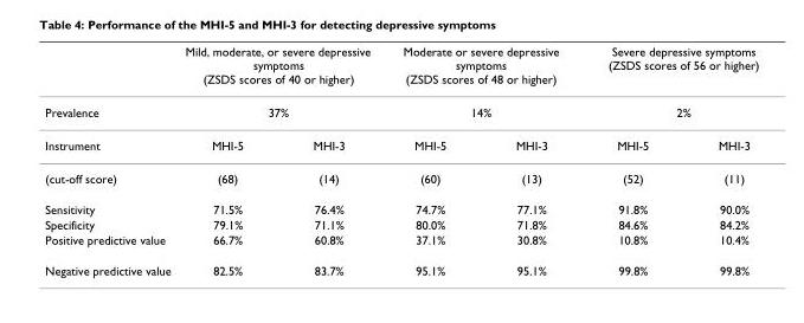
<table><thead><tr><td rowspan="3">Prevalence Instrument</td><td rowspan="2" colspan="2">Mild, moderate, or severe depressive symptoms (ZSDS scores of 40 or higher) 37%</td><td rowspan="2" colspan="2">Moderate or severe depressive symptoms (ZSDS scores of 48 or higher) 14%</td><td rowspan="2" colspan="2">Severe depressive symptoms (ZSDS scores of 56 or higher) 2%</td></tr><tr></tr><tr><td>MHI-5</td><td>MHI-3</td><td>MHI-5</td><td>MHI-3</td><td>MHI-5</td><td>MHI-3</td></tr></thead><tbody><tr><td>(cut-off score)</td><td>(68)</td><td>(14)</td><td>(60)</td><td>(13)</td><td>(52)</td><td>(11)</td></tr><tr><td>Sensitivity</td><td>71.5%</td><td>76.4%</td><td>74.7%</td><td>77.1%</td><td>91.8%</td><td>90.0%</td></tr><tr><td>Specificity</td><td>79.1%</td><td>71.1%</td><td>80.0%</td><td>71.8%</td><td>84.6%</td><td>84.2%</td></tr><tr><td>Positive predictive value</td><td>66.7%</td><td>60.8%</td><td>37.1%</td><td>30.8%</td><td>10.8%</td><td>10.4%</td></tr><tr><td>Negative predictive value</td><td>82.5%</td><td>83.7%</td><td>95.1%</td><td>95.1%</td><td>99.8%</td><td>99.8%</td></tr></tbody></table>